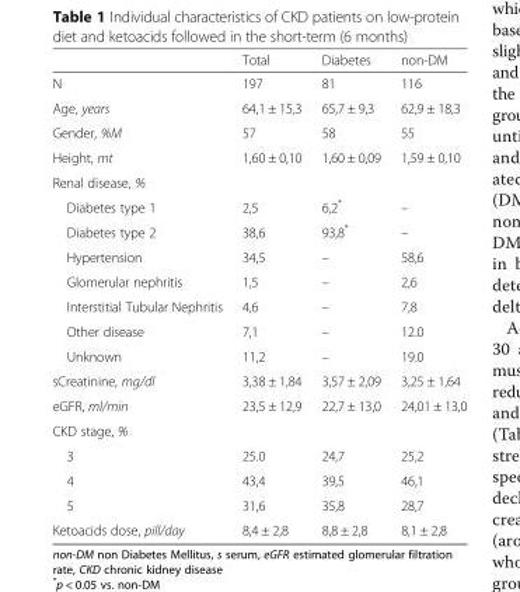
<table><thead><tr><td></td><td>Total</td><td>Diabetes</td><td>non-DM</td></tr></thead><tbody><tr><td>N</td><td>197</td><td>81</td><td>116</td></tr><tr><td>Age, years</td><td>64,1 ± 15,3</td><td>65,7 ± 9,3</td><td>62,9 ± 18,3</td></tr><tr><td>Gender, %M</td><td>57</td><td>58</td><td>55</td></tr><tr><td>Height, mt</td><td>1,60 ± 0,10</td><td>1,60 ± 0,09</td><td>1,59 ± 0,10</td></tr><tr><td colspan="4">Renal disease, %</td></tr><tr><td>Diabetes type 1</td><td>2,5</td><td>6,2*</td><td>–</td></tr><tr><td>Diabetes type 2</td><td>38,6</td><td>93,8*</td><td>–</td></tr><tr><td>Hypertension</td><td>34,5</td><td>–</td><td>58,6</td></tr><tr><td>Glomerular nephritis</td><td>1,5</td><td>–</td><td>2,6</td></tr><tr><td>Interstitial Tubular Nephritis</td><td>4,6</td><td>–</td><td>7,8</td></tr><tr><td>Other disease</td><td>7,1</td><td>–</td><td>12.0</td></tr><tr><td>Unknown</td><td>11,2</td><td>–</td><td>19.0</td></tr><tr><td>sCreatinine, mg/dl</td><td>3,38 ± 1,84</td><td>3,57 ± 2,09</td><td>3,25 ± 1,64</td></tr><tr><td>eGFR, ml/min</td><td>23,5 ± 12,9</td><td>22,7 ± 13,0</td><td>24,01 ± 13,0</td></tr><tr><td colspan="4">CKD stage, %</td></tr><tr><td>3</td><td>25.0</td><td>24,7</td><td>25,2</td></tr><tr><td>4</td><td>43,4</td><td>39,5</td><td>46,1</td></tr><tr><td>5</td><td>31,6</td><td>35,8</td><td>28,7</td></tr><tr><td>Ketoacids dose, pill/day</td><td>8,4 ± 2,8</td><td>8,8 ± 2,8</td><td>8,1 ± 2,8</td></tr></tbody></table>